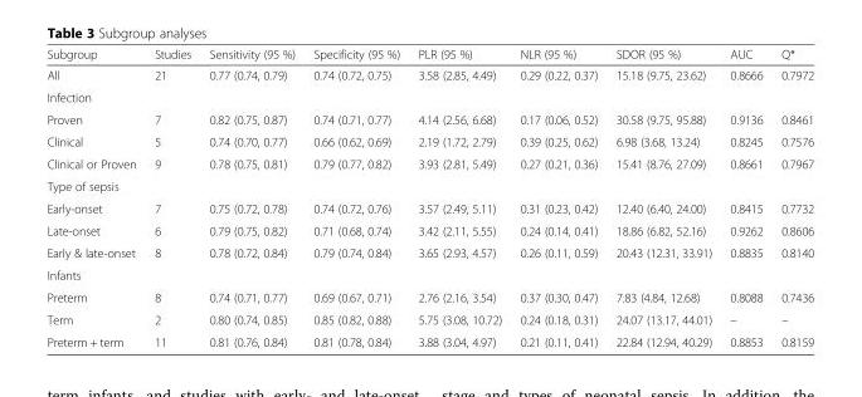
<table><thead><tr><td>Subgroup</td><td>Studies</td><td>Sensitivity (95 %)</td><td>Specificity (95 %)</td><td>PLR (95 %)</td><td>NLR (95 %)</td><td>SDOR (95 %)</td><td>AUC</td><td>Q*</td></tr></thead><tbody><tr><td>All</td><td>21</td><td>0.77 (0.74, 0.79)</td><td>0.74 (0.72, 0.75)</td><td>3.58 (2.85, 4.49)</td><td>0.29 (0.22, 0.37)</td><td>15.18 (9.75, 23.62)</td><td>0.8666</td><td>0.7972</td></tr><tr><td colspan="9">Infection</td></tr><tr><td>Proven</td><td>7</td><td>0.82 (0.75, 0.87)</td><td>0.74 (0.71, 0.77)</td><td>4.14 (2.56, 6.68)</td><td>0.17 (0.06, 0.52)</td><td>30.58 (9.75, 95.88)</td><td>0.9136</td><td>0.8461</td></tr><tr><td>Clinical</td><td>5</td><td>0.74 (0.70, 0.77)</td><td>0.66 (0.62, 0.69)</td><td>2.19 (1.72, 2.79)</td><td>0.39 (0.25, 0.62)</td><td>6.98 (3.68, 13.24)</td><td>0.8245</td><td>0.7576</td></tr><tr><td>Clinical or Proven</td><td>9</td><td>0.78 (0.75, 0.81)</td><td>0.79 (0.77, 0.82)</td><td>3.93 (2.81, 5.49)</td><td>0.27 (0.21, 0.36)</td><td>15.41 (8.76, 27.09)</td><td>0.8661</td><td>0.7967</td></tr><tr><td colspan="9">Type of sepsis</td></tr><tr><td>Early-onset</td><td>7</td><td>0.75 (0.72, 0.78)</td><td>0.74 (0.72, 0.76)</td><td>3.57 (2.49, 5.11)</td><td>0.31 (0.23, 0.42)</td><td>12.40 (6.40, 24.00)</td><td>0.8415</td><td>0.7732</td></tr><tr><td>Late-onset</td><td>6</td><td>0.79 (0.75, 0.82)</td><td>0.71 (0.68, 0.74)</td><td>3.42 (2.11, 5.55)</td><td>0.24 (0.14, 0.41)</td><td>18.86 (6.82, 52.16)</td><td>0.9262</td><td>0.8606</td></tr><tr><td>Early &amp; late-onset</td><td>8</td><td>0.78 (0.72, 0.84)</td><td>0.79 (0.74, 0.84)</td><td>3.65 (2.93, 4.57)</td><td>0.26 (0.11, 0.59)</td><td>20.43 (12.31, 33.91)</td><td>0.8835</td><td>0.8140</td></tr><tr><td colspan="9">Infants</td></tr><tr><td>Preterm</td><td>8</td><td>0.74 (0.71, 0.77)</td><td>0.69 (0.67, 0.71)</td><td>2.76 (2.16, 3.54)</td><td>0.37 (0.30, 0.47)</td><td>7.83 (4.84, 12.68)</td><td>0.8088</td><td>0.7436</td></tr><tr><td>Term</td><td>2</td><td>0.80 (0.74, 0.85)</td><td>0.85 (0.82, 0.88)</td><td>5.75 (3.08, 10.72)</td><td>0.24 (0.18, 0.31)</td><td>24.07 (13.17, 44.01)</td><td>–</td><td>–</td></tr><tr><td>Preterm + term</td><td>11</td><td>0.81 (0.76, 0.84)</td><td>0.81 (0.78, 0.84)</td><td>3.88 (3.04, 4.97)</td><td>0.21 (0.11, 0.41)</td><td>22.84 (12.94, 40.29)</td><td>0.8853</td><td>0.8159</td></tr></tbody></table>